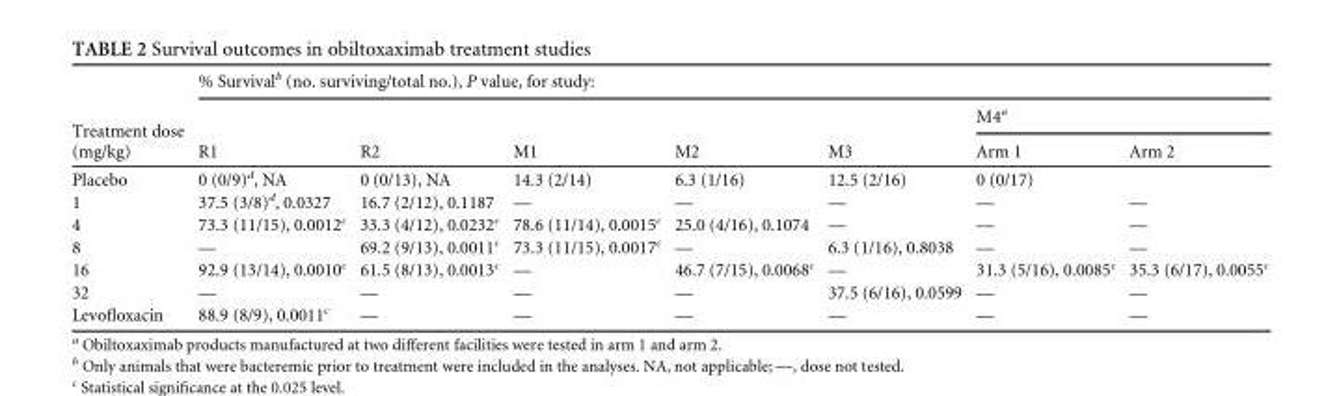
<table><thead><tr><td rowspan="3">Treatment dose (mg/kg)</td><td colspan="7">% Survival<sup>b</sup> (no. surviving/total no.), P value, for study:</td></tr><tr><td rowspan="2">R1</td><td rowspan="2">R2</td><td rowspan="2">M1</td><td rowspan="2">M2</td><td rowspan="2">M3</td><td colspan="2">M4<sup>a</sup></td></tr><tr><td>Arm 1</td><td>Arm 2</td></tr></thead><tbody><tr><td>Placebo</td><td>0 (0/9)<sup>d</sup>, NA</td><td>0 (0/13), NA</td><td>14.3 (2/14)</td><td>6.3 (1/16)</td><td>12.5 (2/16)</td><td>0 (0/17)</td><td></td></tr><tr><td>1</td><td>37.5 (3/8)<sup>d</sup>, 0.0327</td><td>16.7 (2/12), 0.1187</td><td>—</td><td>—</td><td>—</td><td>—</td><td>—</td></tr><tr><td>4</td><td>73.3 (11/15), 0.0012<sup>c</sup></td><td>33.3 (4/12), 0.0232<sup>c</sup></td><td>78.6 (11/14), 0.0015<sup>c</sup></td><td>25.0 (4/16), 0.1074</td><td>—</td><td>—</td><td>—</td></tr><tr><td>8</td><td>—</td><td>69.2 (9/13), 0.0011<sup>c</sup></td><td>73.3 (11/15), 0.0017<sup>c</sup></td><td>—</td><td>6.3 (1/16), 0.8038</td><td>—</td><td>—</td></tr><tr><td>16</td><td>92.9 (13/14), 0.0010<sup>c</sup></td><td>61.5 (8/13), 0.0013<sup>c</sup></td><td>—</td><td>46.7 (7/15), 0.0068<sup>c</sup></td><td>—</td><td>31.3 (5/16), 0.0085<sup>c</sup></td><td>35.3 (6/17), 0.0055<sup>c</sup></td></tr><tr><td>32</td><td>—</td><td>—</td><td>—</td><td>—</td><td>37.5 (6/16), 0.0599</td><td>—</td><td>—</td></tr><tr><td>Levofloxacin</td><td>88.9 (8/9), 0.0011<sup>c</sup></td><td>—</td><td>—</td><td>—</td><td>—</td><td>—</td><td>—</td></tr></tbody></table>